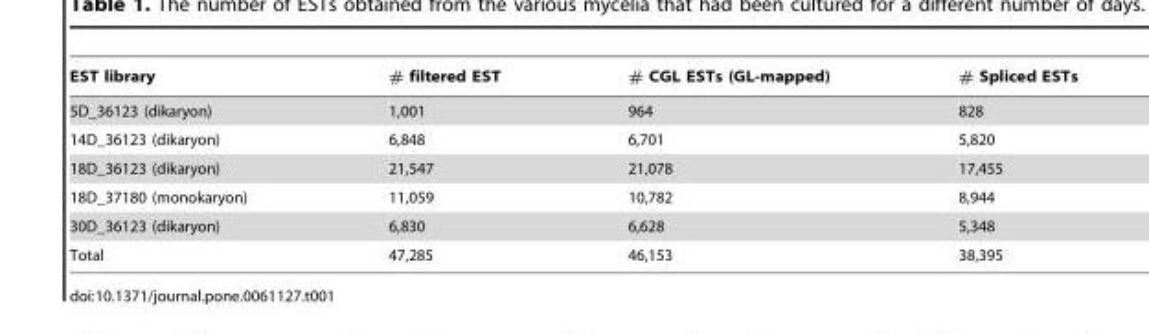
<table><thead><tr><td>EST library</td><td># filtered EST</td><td># CGL ESTs (GL-mapped)</td><td># Spliced ESTs</td></tr></thead><tbody><tr><td>5D_36123 (dikaryon)</td><td>1,001</td><td>964</td><td>828</td></tr><tr><td>14D_36123 (dikaryon)</td><td>6,848</td><td>6,701</td><td>5,820</td></tr><tr><td>18D_36123 (dikaryon)</td><td>21,547</td><td>21,078</td><td>17,455</td></tr><tr><td>18D_37180 (monokaryon)</td><td>11,059</td><td>10,782</td><td>8,944</td></tr><tr><td>30D_36123 (dikaryon)</td><td>6,830</td><td>6,628</td><td>5,348</td></tr><tr><td>Total</td><td>47,285</td><td>46,153</td><td>38,395</td></tr></tbody></table>